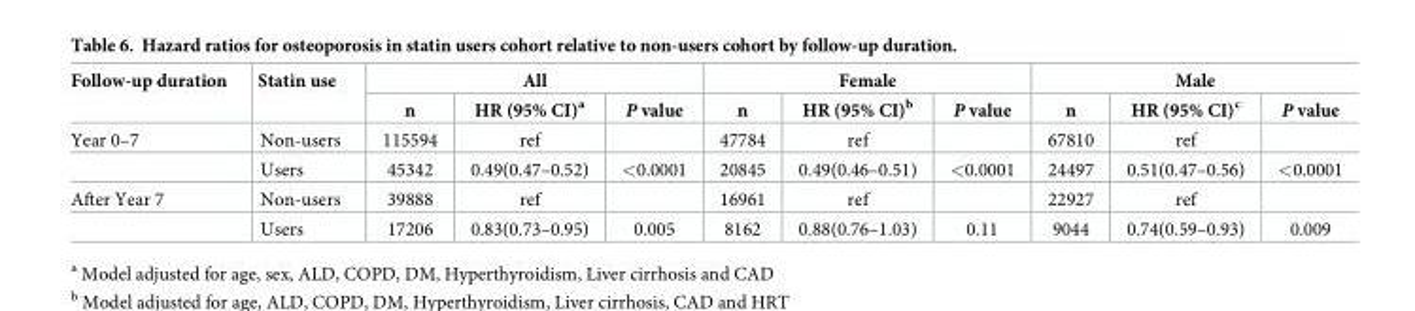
<table><thead><tr><td rowspan="2">Follow-up duration</td><td rowspan="2">Statin use</td><td colspan="3">All</td><td colspan="3">Female</td><td colspan="3">Male</td></tr><tr><td>n</td><td>HR (95% CI)<sup>a</sup></td><td>P value</td><td>n</td><td>HR (95% CI)<sup>b</sup></td><td>P value</td><td>n</td><td>HR (95% CI)<sup>c</sup></td><td>P value</td></tr></thead><tbody><tr><td rowspan="2">Year 0–7</td><td>Non-users</td><td>115594</td><td>ref</td><td></td><td>47784</td><td>ref</td><td></td><td>67810</td><td>ref</td><td></td></tr><tr><td>Users</td><td>45342</td><td>0.49(0.47–0.52)</td><td>&lt;0.0001</td><td>20845</td><td>0.49(0.46–0.51)</td><td>&lt;0.0001</td><td>24497</td><td>0.51(0.47–0.56)</td><td>&lt;0.0001</td></tr><tr><td rowspan="2">After Year 7</td><td>Non-users</td><td>39888</td><td>ref</td><td></td><td>16961</td><td>ref</td><td></td><td>22927</td><td>ref</td><td></td></tr><tr><td>Users</td><td>17206</td><td>0.83(0.73–0.95)</td><td>0.005</td><td>8162</td><td>0.88(0.76–1.03)</td><td>0.11</td><td>9044</td><td>0.74(0.59–0.93)</td><td>0.009</td></tr></tbody></table>